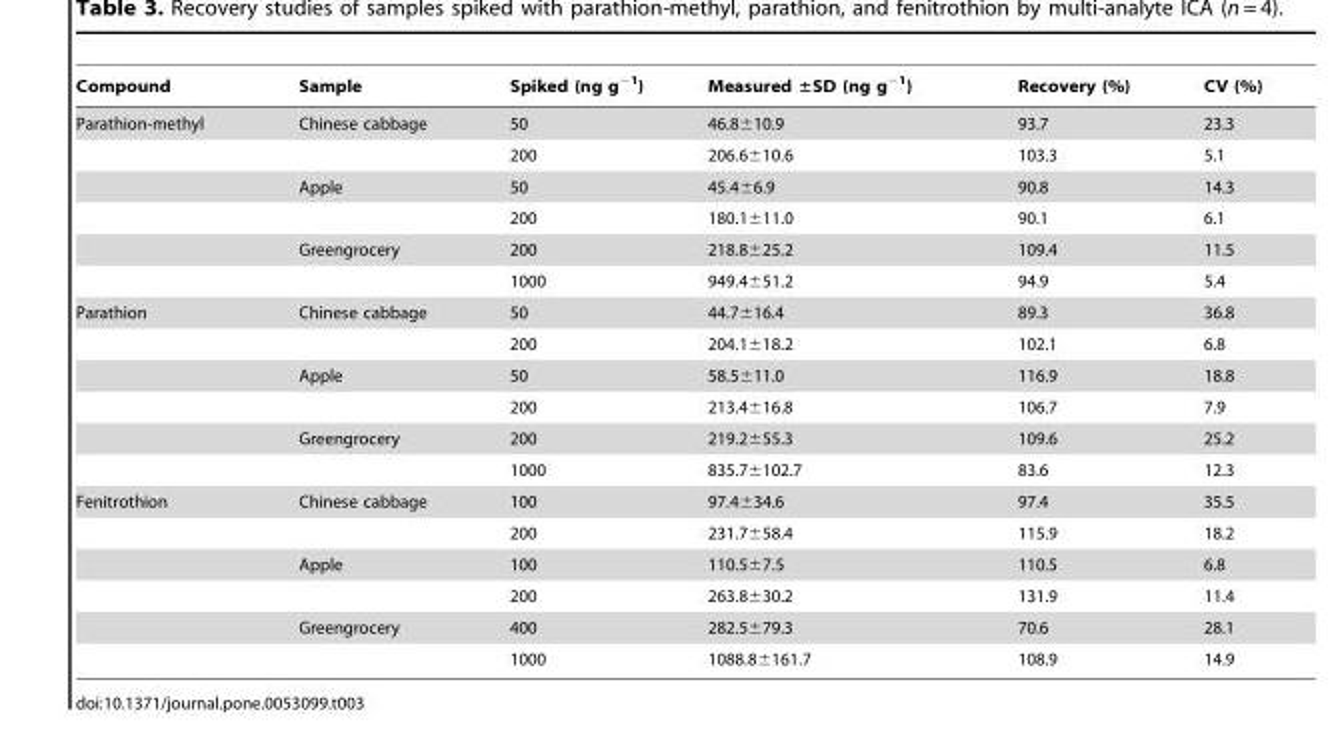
<table><thead><tr><td>Compound</td><td>Sample</td><td>Spiked (ng g<sup>−1</sup>)</td><td>Measured ±SD (ng g<sup>−1</sup>)</td><td>Recovery (%)</td><td>CV (%)</td></tr></thead><tbody><tr><td rowspan="6">Parathion-methyl</td><td>Chinese cabbage</td><td>50</td><td>46.8±10.9</td><td>93.7</td><td>23.3</td></tr><tr><td></td><td>200</td><td>206.6±10.6</td><td>103.3</td><td>5.1</td></tr><tr><td>Apple</td><td>50</td><td>45.4±6.9</td><td>90.8</td><td>14.3</td></tr><tr><td></td><td>200</td><td>180.1±11.0</td><td>90.1</td><td>6.1</td></tr><tr><td>Greengrocery</td><td>200</td><td>218.8±25.2</td><td>109.4</td><td>11.5</td></tr><tr><td></td><td>1000</td><td>949.4±51.2</td><td>94.9</td><td>5.4</td></tr><tr><td rowspan="6">Parathion</td><td>Chinese cabbage</td><td>50</td><td>44.7±16.4</td><td>89.3</td><td>36.8</td></tr><tr><td></td><td>200</td><td>204.1±18.2</td><td>102.1</td><td>6.8</td></tr><tr><td>Apple</td><td>50</td><td>58.5±11.0</td><td>116.9</td><td>18.8</td></tr><tr><td></td><td>200</td><td>213.4±16.8</td><td>106.7</td><td>7.9</td></tr><tr><td>Greengrocery</td><td>200</td><td>219.2±55.3</td><td>109.6</td><td>25.2</td></tr><tr><td></td><td>1000</td><td>835.7±102.7</td><td>83.6</td><td>12.3</td></tr><tr><td rowspan="6">Fenitrothion</td><td>Chinese cabbage</td><td>100</td><td>97.4±34.6</td><td>97.4</td><td>35.5</td></tr><tr><td></td><td>200</td><td>231.7±58.4</td><td>115.9</td><td>18.2</td></tr><tr><td>Apple</td><td>100</td><td>110.5±7.5</td><td>110.5</td><td>6.8</td></tr><tr><td></td><td>200</td><td>263.8±30.2</td><td>131.9</td><td>11.4</td></tr><tr><td>Greengrocery</td><td>400</td><td>282.5±79.3</td><td>70.6</td><td>28.1</td></tr><tr><td></td><td>1000</td><td>1088.8±161.7</td><td>108.9</td><td>14.9</td></tr></tbody></table>